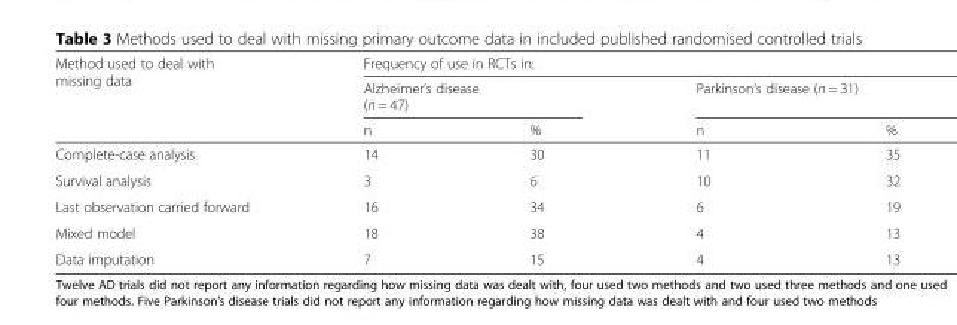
<table><thead><tr><td rowspan="3">Method used to deal with missing data</td><td colspan="4">Frequency of use in RCTs in:</td></tr><tr><td colspan="2">Alzheimer’s disease (n = 47)</td><td colspan="2">Parkinson’s disease (n = 31)</td></tr><tr><td>n</td><td>%</td><td>n</td><td>%</td></tr></thead><tbody><tr><td>Complete-case analysis</td><td>14</td><td>30</td><td>11</td><td>35</td></tr><tr><td>Survival analysis</td><td>3</td><td>6</td><td>10</td><td>32</td></tr><tr><td>Last observation carried forward</td><td>16</td><td>34</td><td>6</td><td>19</td></tr><tr><td>Mixed model</td><td>18</td><td>38</td><td>4</td><td>13</td></tr><tr><td>Data imputation</td><td>7</td><td>15</td><td>4</td><td>13</td></tr></tbody></table>